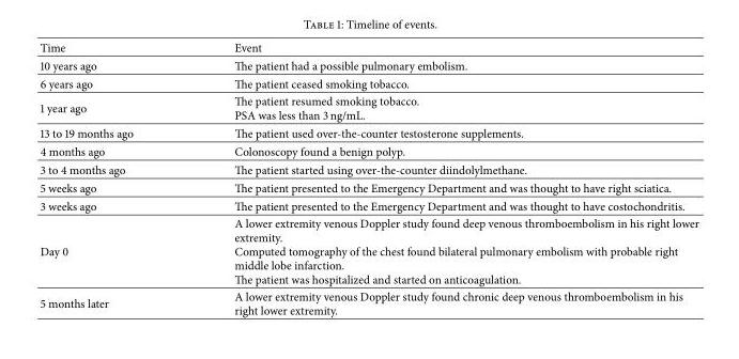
<table><thead><tr><td>Time</td><td>Event</td></tr></thead><tbody><tr><td>10 years ago</td><td>The patient had a possible pulmonary embolism.</td></tr><tr><td>6 years ago</td><td>The patient ceased smoking tobacco.</td></tr><tr><td>1 year ago</td><td>The patient resumed smoking tobacco. PSA was less than 3 ng/mL.</td></tr><tr><td>13 to 19 months ago</td><td>The patient used over-the-counter testosterone supplements.</td></tr><tr><td>4 months ago</td><td>Colonoscopy found a benign polyp.</td></tr><tr><td>3 to 4 months ago</td><td>The patient started using over-the-counter diindolylmethane.</td></tr><tr><td>5 weeks ago</td><td>The patient presented to the Emergency Department and was thought to have right sciatica.</td></tr><tr><td>3 weeks ago</td><td>The patient presented to the Emergency Department and was thought to have costochondritis.</td></tr><tr><td>Day 0</td><td>A lower extremity venous Doppler study found deep venous thromboembolism in his right lower extremity. Computed tomography of the chest found bilateral pulmonary embolism with probable right middle lobe infarction. The patient was hospitalized and started on anticoagulation.</td></tr><tr><td>5 months later</td><td>A lower extremity venous Doppler study found chronic deep venous thromboembolism in his right lower extremity.</td></tr></tbody></table>